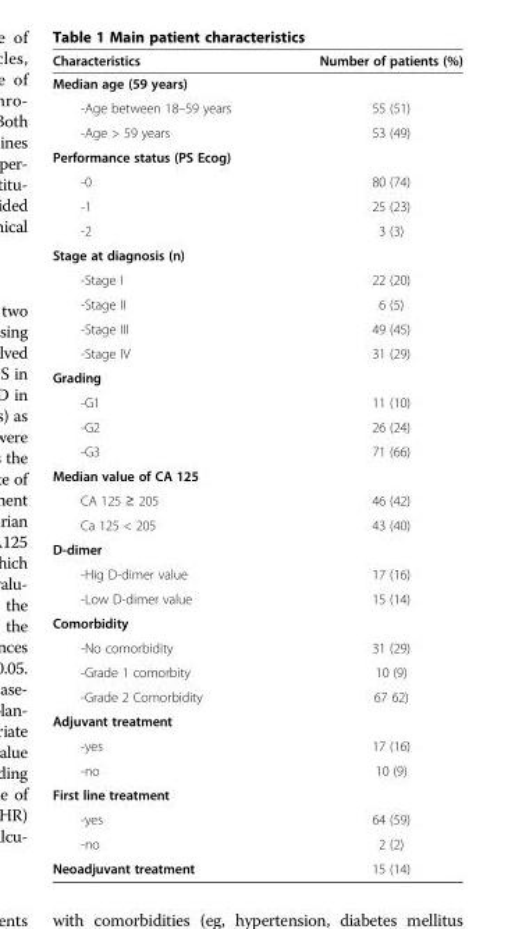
<table><thead><tr><td>Characteristics</td><td>Number of patients (%)</td></tr></thead><tbody><tr><td colspan="2">Median age (59 years)</td></tr><tr><td>-Age between 18–59 years</td><td>55 (51)</td></tr><tr><td>-Age &gt; 59 years</td><td>53 (49)</td></tr><tr><td colspan="2">Performance status (PS Ecog)</td></tr><tr><td>-0</td><td>80 (74)</td></tr><tr><td>-1</td><td>25 (23)</td></tr><tr><td>-2</td><td>3 (3)</td></tr><tr><td colspan="2">Stage at diagnosis (n)</td></tr><tr><td>-Stage I</td><td>22 (20)</td></tr><tr><td>-Stage II</td><td>6 (5)</td></tr><tr><td>-Stage III</td><td>49 (45)</td></tr><tr><td>-Stage IV</td><td>31 (29)</td></tr><tr><td colspan="2">Grading</td></tr><tr><td>-G1</td><td>11 (10)</td></tr><tr><td>-G2</td><td>26 (24)</td></tr><tr><td>-G3</td><td>71 (66)</td></tr><tr><td colspan="2">Median value of CA 125</td></tr><tr><td>CA 125 ≥ 205</td><td>46 (42)</td></tr><tr><td>Ca 125 &lt; 205</td><td>43 (40)</td></tr><tr><td colspan="2">D-dimer</td></tr><tr><td>-Hig D-dimer value</td><td>17 (16)</td></tr><tr><td>-Low D-dimer value</td><td>15 (14)</td></tr><tr><td colspan="2">Comorbidity</td></tr><tr><td>-No comorbidity</td><td>31 (29)</td></tr><tr><td>-Grade 1 comorbity</td><td>10 (9)</td></tr><tr><td>-Grade 2 Comorbidity</td><td>67 62)</td></tr><tr><td colspan="2">Adjuvant treatment</td></tr><tr><td>-yes</td><td>17 (16)</td></tr><tr><td>-no</td><td>10 (9)</td></tr><tr><td colspan="2">First line treatment</td></tr><tr><td>-yes</td><td>64 (59)</td></tr><tr><td>-no</td><td>2 (2)</td></tr><tr><td>Neoadjuvant treatment</td><td>15 (14)</td></tr></tbody></table>